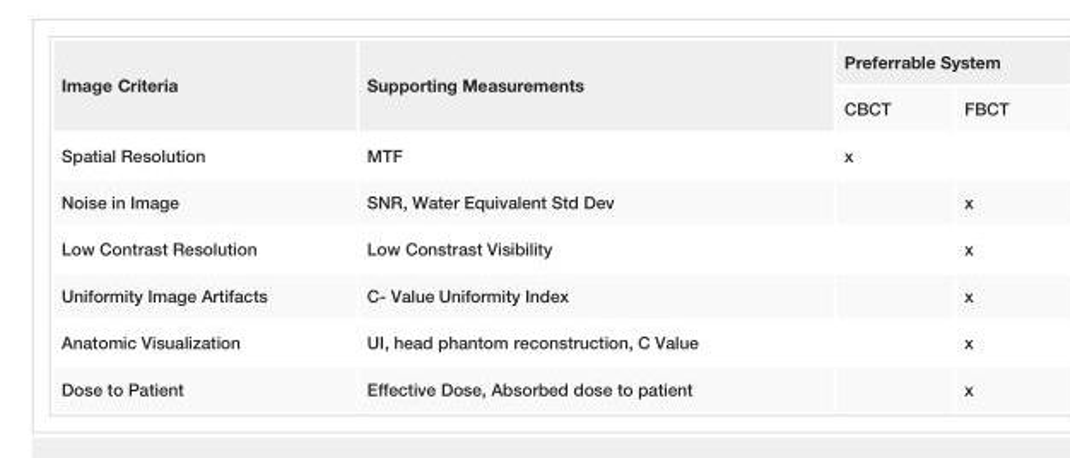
<table><tbody><tr><td rowspan="2">Image Criteria</td><td rowspan="2">Supporting Measurements</td><td colspan="2">Preferrable System</td></tr><tr><td>CBCT</td><td>FBCT</td></tr><tr><td>Spatial Resolution</td><td>MTF</td><td>x</td><td></td></tr><tr><td>Noise in Image</td><td>SNR, Water Equivalent Std Dev</td><td></td><td>x</td></tr><tr><td>Low Contrast Resolution</td><td>Low Constrast Visibility</td><td></td><td>x</td></tr><tr><td>Uniformity Image Artifacts</td><td>C- Value Uniformity Index</td><td></td><td>x</td></tr><tr><td>Anatomic Visualization</td><td>UI, head phantom reconstruction, C Value</td><td></td><td>x</td></tr><tr><td>Dose to Patient</td><td>Effective Dose, Absorbed dose to patient</td><td></td><td>x</td></tr></tbody></table>